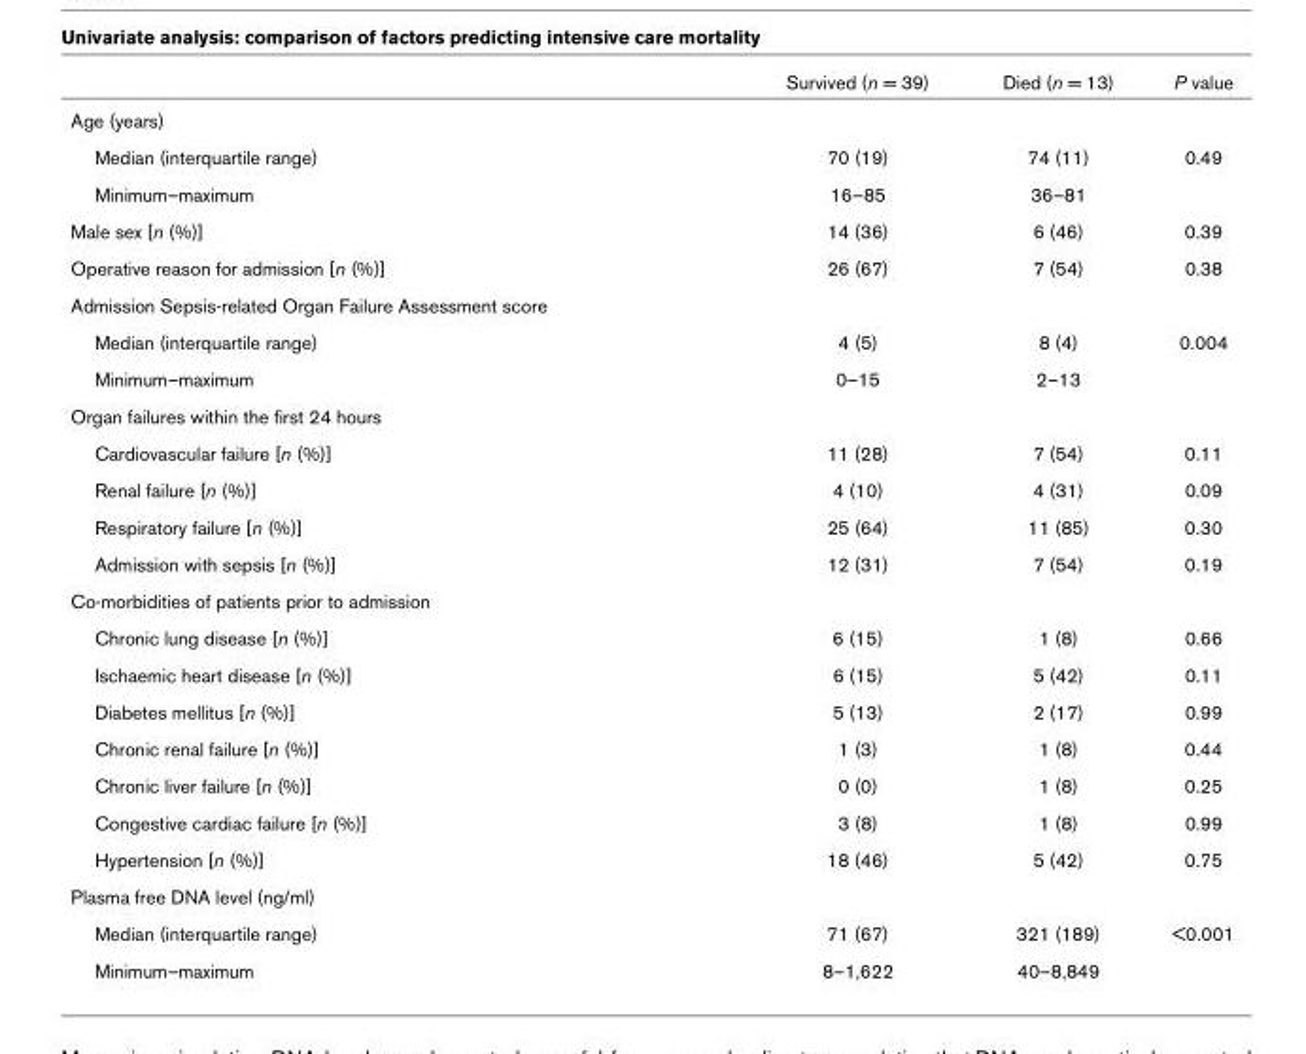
<table><thead><tr><td></td><td>Survived (n = 39)</td><td>Died (n = 13)</td><td>P value</td></tr></thead><tbody><tr><td colspan="4">Age (years)</td></tr><tr><td>Median (interquartile range)</td><td>70 (19)</td><td>74 (11)</td><td>0.49</td></tr><tr><td>Minimum–maximum</td><td>16–85</td><td>36–81</td><td></td></tr><tr><td>Male sex [n (%)]</td><td>14 (36)</td><td>6 (46)</td><td>0.39</td></tr><tr><td>Operative reason for admission [n (%)]</td><td>26 (67)</td><td>7 (54)</td><td>0.38</td></tr><tr><td colspan="4">Admission Sepsis-related Organ Failure Assessment score</td></tr><tr><td>Median (interquartile range)</td><td>4 (5)</td><td>8 (4)</td><td>0.004</td></tr><tr><td>Minimum–maximum</td><td>0–15</td><td>2–13</td><td></td></tr><tr><td colspan="4">Organ failures within the first 24 hours</td></tr><tr><td>Cardiovascular failure [n (%)]</td><td>11 (28)</td><td>7 (54)</td><td>0.11</td></tr><tr><td>Renal failure [n (%)]</td><td>4 (10)</td><td>4 (31)</td><td>0.09</td></tr><tr><td>Respiratory failure [n (%)]</td><td>25 (64)</td><td>11 (85)</td><td>0.30</td></tr><tr><td>Admission with sepsis [n (%)]</td><td>12 (31)</td><td>7 (54)</td><td>0.19</td></tr><tr><td colspan="4">Co-morbidities of patients prior to admission</td></tr><tr><td>Chronic lung disease [n (%)]</td><td>6 (15)</td><td>1 (8)</td><td>0.66</td></tr><tr><td>Ischaemic heart disease [n (%)]</td><td>6 (15)</td><td>5 (42)</td><td>0.11</td></tr><tr><td>Diabetes mellitus [n (%)]</td><td>5 (13)</td><td>2 (17)</td><td>0.99</td></tr><tr><td>Chronic renal failure [n (%)]</td><td>1 (3)</td><td>1 (8)</td><td>0.44</td></tr><tr><td>Chronic liver failure [n (%)]</td><td>0 (0)</td><td>1 (8)</td><td>0.25</td></tr><tr><td>Congestive cardiac failure [n (%)]</td><td>3 (8)</td><td>1 (8)</td><td>0.99</td></tr><tr><td>Hypertension [n (%)]</td><td>18 (46)</td><td>5 (42)</td><td>0.75</td></tr><tr><td colspan="4">Plasma free DNA level (ng/ml)</td></tr><tr><td>Median (interquartile range)</td><td>71 (67)</td><td>321 (189)</td><td>&lt;0.001</td></tr><tr><td>Minimum–maximum</td><td>8–1,622</td><td>40–8,849</td><td></td></tr></tbody></table>